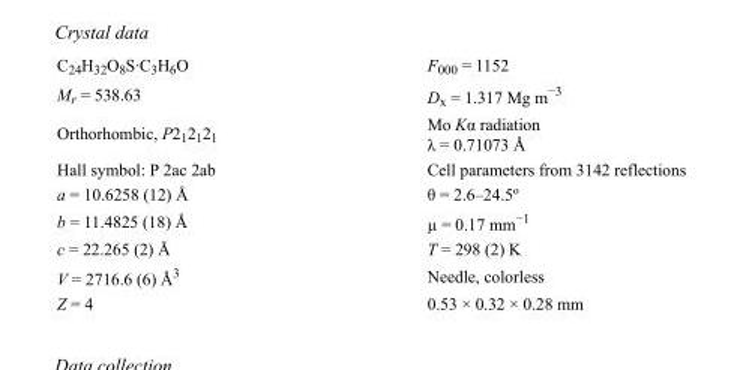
<table><tbody><tr><td>C<sub>24</sub>H<sub>32</sub>O<sub>8</sub>S·C<sub>3</sub>H<sub>6</sub>O</td><td>F000 = 1152</td></tr><tr><td>M<sub>r</sub> = 538.63</td><td>D<sub>x</sub> = 1.317 Mg m<sup>−3</sup></td></tr><tr><td>Orthorhombic, P2<sub>1</sub>2<sub>1</sub>2<sub>1</sub></td><td>Mo Kα radiation λ = 0.71073 Å</td></tr><tr><td>Hall symbol: P 2ac 2ab</td><td>Cell parameters from 3142 reflections</td></tr><tr><td>a = 10.6258 (12) Å</td><td>θ = 2.6–24.5º</td></tr><tr><td>b = 11.4825 (18) Å</td><td>µ = 0.17 mm<sup>−1</sup></td></tr><tr><td>c = 22.265 (2) Å</td><td>T = 298 (2) K</td></tr><tr><td>V = 2716.6 (6) Å<sup>3</sup></td><td>Needle, colorless</td></tr><tr><td>Z = 4</td><td>0.53 × 0.32 × 0.28 mm</td></tr></tbody></table>